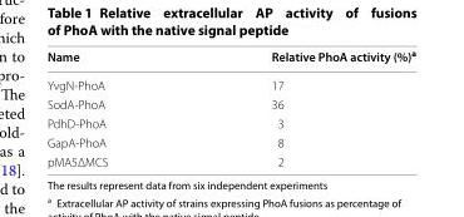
<table><thead><tr><td>Name</td><td>Relative PhoA activity (%)<sup>a</sup></td></tr></thead><tbody><tr><td>YvgN-PhoA</td><td>17</td></tr><tr><td>SodA-PhoA</td><td>36</td></tr><tr><td>PdhD-PhoA</td><td>3</td></tr><tr><td>GapA-PhoA</td><td>8</td></tr><tr><td>pMA5ΔMCS</td><td>2</td></tr></tbody></table>